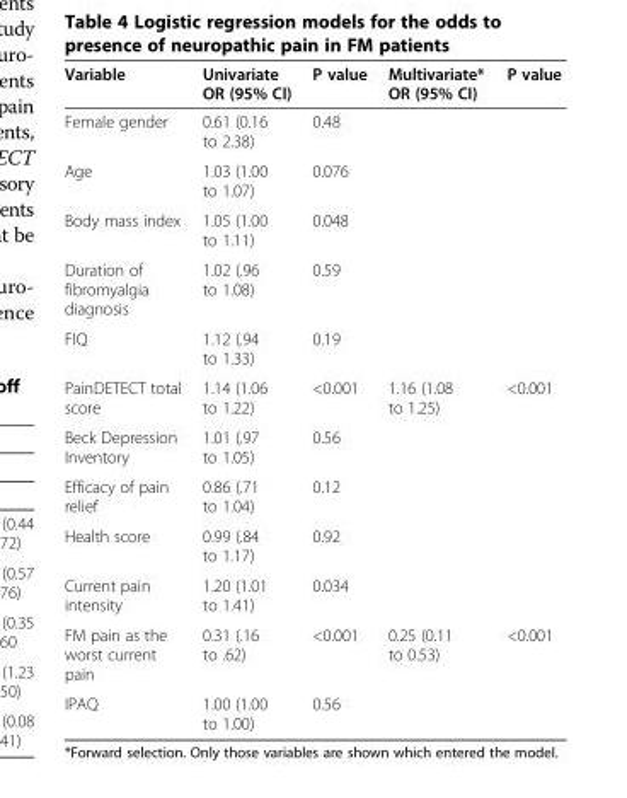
<table><thead><tr><td>Variable</td><td>Univariate OR (95% CI)</td><td>P value</td><td>Multivariate* OR (95% CI)</td><td>P value</td></tr></thead><tbody><tr><td>Female gender</td><td>0.61 (0.16 to 2.38)</td><td>0.48</td><td></td><td></td></tr><tr><td>Age</td><td>1.03 (1.00 to 1.07)</td><td>0.076</td><td></td><td></td></tr><tr><td>Body mass index</td><td>1.05 (1.00 to 1.11)</td><td>0.048</td><td></td><td></td></tr><tr><td>Duration of fibromyalgia diagnosis</td><td>1.02 (.96 to 1.08)</td><td>0.59</td><td></td><td></td></tr><tr><td>FIQ</td><td>1.12 (.94 to 1.33)</td><td>0.19</td><td></td><td></td></tr><tr><td>PainDETECT total score</td><td>1.14 (1.06 to 1.22)</td><td>&lt;0.001</td><td>1.16 (1.08 to 1.25)</td><td>&lt;0.001</td></tr><tr><td>Beck Depression Inventory</td><td>1.01 (.97 to 1.05)</td><td>0.56</td><td></td><td></td></tr><tr><td>Efficacy of pain relief</td><td>0.86 (.71 to 1.04)</td><td>0.12</td><td></td><td></td></tr><tr><td>Health score</td><td>0.99 (.84 to 1.17)</td><td>0.92</td><td></td><td></td></tr><tr><td>Current pain intensity</td><td>1.20 (1.01 to 1.41)</td><td>0.034</td><td></td><td></td></tr><tr><td>FM pain as the worst current pain</td><td>0.31 (.16 to .62)</td><td>&lt;0.001</td><td>0.25 (0.11 to 0.53)</td><td>&lt;0.001</td></tr><tr><td>IPAQ</td><td>1.00 (1.00 to 1.00)</td><td>0.56</td><td></td><td></td></tr></tbody></table>